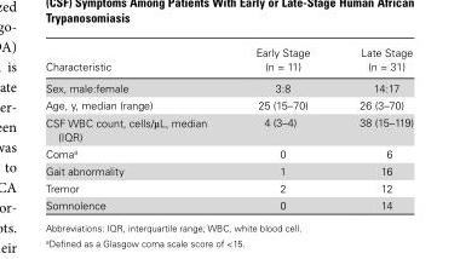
<table><thead><tr><td>Characteristic</td><td>Early Stage (n = 11)</td><td>Late Stage (n = 31)</td></tr></thead><tbody><tr><td>Sex, male:female</td><td>3:8</td><td>14:17</td></tr><tr><td>Age, y, median (range)</td><td>25 (15–70)</td><td>26 (3–70)</td></tr><tr><td>CSF WBC count, cells/µL, median (IQR)</td><td>4 (3–4)</td><td>38 (15–119)</td></tr><tr><td>Coma<sup>a</sup></td><td>0</td><td>6</td></tr><tr><td>Gait abnormality</td><td>1</td><td>16</td></tr><tr><td>Tremor</td><td>2</td><td>12</td></tr><tr><td>Somnolence</td><td>0</td><td>14</td></tr></tbody></table>